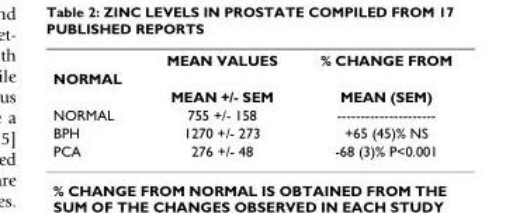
<table><thead><tr><td></td><td>MEAN VALUES</td><td>% CHANGE FROM</td></tr></thead><tbody><tr><td colspan="3">NORMAL</td></tr><tr><td></td><td>MEAN +/- SEM</td><td>MEAN (SEM)</td></tr><tr><td>NORMAL</td><td>755 +/- 158</td><td>---------------------</td></tr><tr><td>BPH</td><td>1270 +/- 273</td><td>+65 (45)% NS</td></tr><tr><td>PCA</td><td>276 +/- 48</td><td>-68 (3)% P&lt;0.001</td></tr></tbody></table>